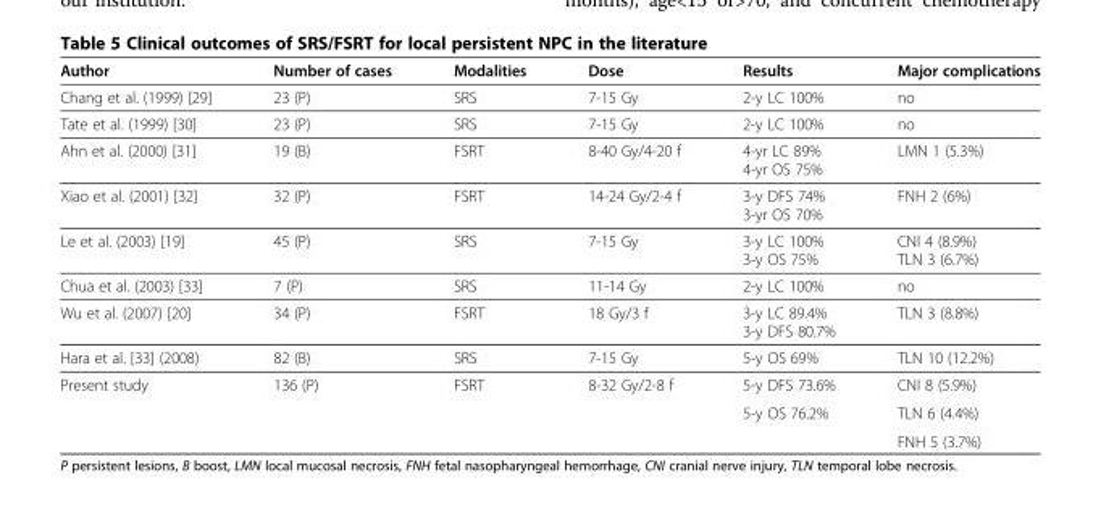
<table><thead><tr><td>Author</td><td>Number of cases</td><td>Modalities</td><td>Dose</td><td>Results</td><td>Major complications</td></tr></thead><tbody><tr><td>Chang et al. (1999) [29]</td><td>23 (P)</td><td>SRS</td><td>7-15 Gy</td><td>2-y LC 100%</td><td>no</td></tr><tr><td>Tate et al. (1999) [30]</td><td>23 (P)</td><td>SRS</td><td>7-15 Gy</td><td>2-y LC 100%</td><td>no</td></tr><tr><td rowspan="2">Ahn et al. (2000) [31]</td><td rowspan="2">19 (B)</td><td rowspan="2">FSRT</td><td rowspan="2">8-40 Gy/4-20 f</td><td>4-yr LC 89%</td><td rowspan="2">LMN 1 (5.3%)</td></tr><tr><td>4-yr OS 75%</td></tr><tr><td rowspan="2">Xiao et al. (2001) [32]</td><td rowspan="2">32 (P)</td><td rowspan="2">FSRT</td><td rowspan="2">14-24 Gy/2-4 f</td><td>3-y DFS 74%</td><td rowspan="2">FNH 2 (6%)</td></tr><tr><td>3-yr OS 70%</td></tr><tr><td rowspan="2">Le et al. (2003) [19]</td><td rowspan="2">45 (P)</td><td rowspan="2">SRS</td><td rowspan="2">7-15 Gy</td><td>3-y LC 100%</td><td>CNI 4 (8.9%)</td></tr><tr><td>3-y OS 75%</td><td>TLN 3 (6.7%)</td></tr><tr><td>Chua et al. (2003) [33]</td><td>7 (P)</td><td>SRS</td><td>11-14 Gy</td><td>2-y LC 100%</td><td>no</td></tr><tr><td rowspan="2">Wu et al. (2007) [20]</td><td rowspan="2">34 (P)</td><td rowspan="2">FSRT</td><td rowspan="2">18 Gy/3 f</td><td>3-y LC 89.4%</td><td rowspan="2">TLN 3 (8.8%)</td></tr><tr><td>3-y DFS 80.7%</td></tr><tr><td>Hara et al. [33] (2008)</td><td>82 (B)</td><td>SRS</td><td>7-15 Gy</td><td>5-y OS 69%</td><td>TLN 10 (12.2%)</td></tr><tr><td rowspan="3">Present study</td><td rowspan="2">136 (P)</td><td rowspan="2">FSRT</td><td rowspan="2">8-32 Gy/2-8 f</td><td>5-y DFS 73.6%</td><td>CNI 8 (5.9%)</td></tr><tr><td>5-y OS 76.2%</td><td>TLN 6 (4.4%)</td></tr><tr><td></td><td></td><td></td><td></td><td>FNH 5 (3.7%)</td></tr></tbody></table>